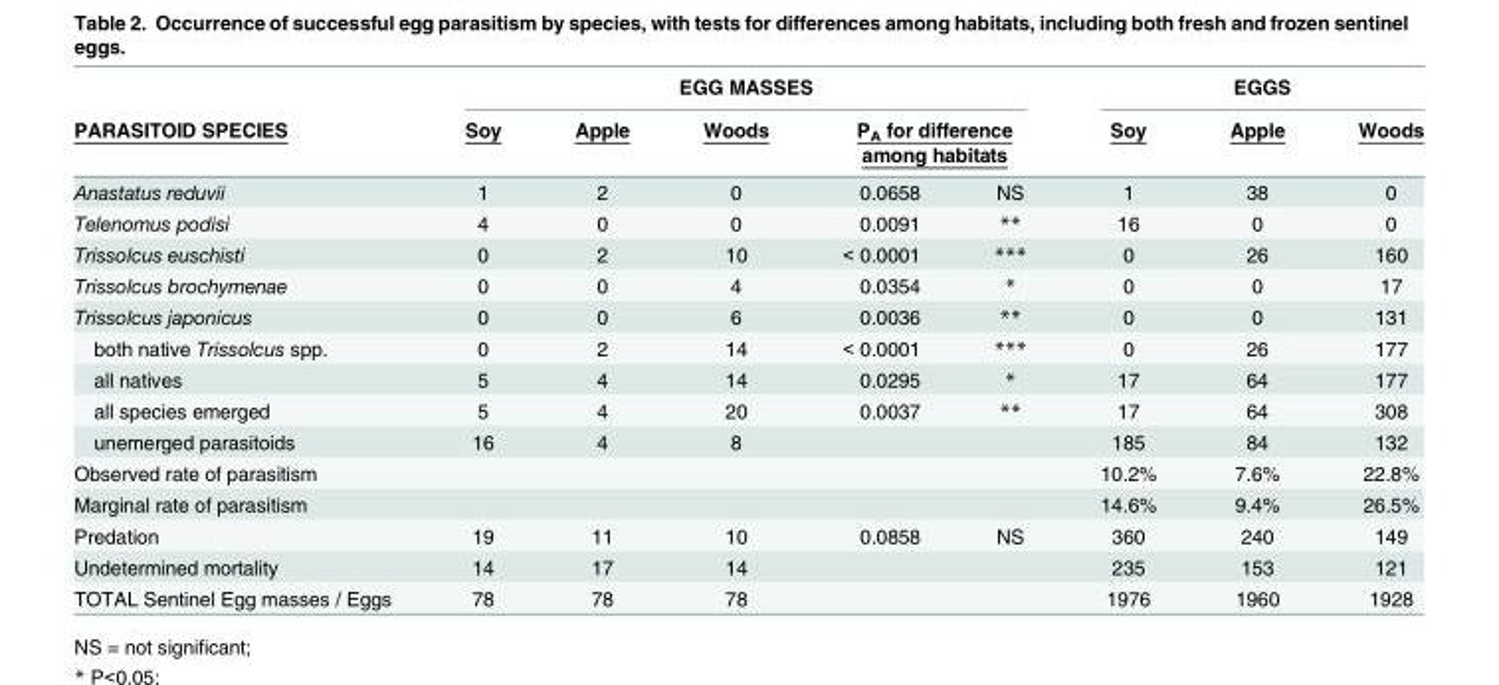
<table><thead><tr><td rowspan="3">PARASITOID SPECIES Anastatus reduvii</td><td colspan="5">EGG MASSES</td><td colspan="3">EGGS</td></tr><tr><td rowspan="2">Soy 1</td><td rowspan="2">Apple 2</td><td rowspan="2">Woods 0</td><td colspan="2">P<sub>A</sub> for difference among habitats</td><td rowspan="2">Soy 1</td><td rowspan="2">Apple 38</td><td rowspan="2">Woods 0</td></tr><tr><td>0.0658</td><td>NS</td></tr></thead><tbody><tr><td>Telenomus podisi</td><td>4</td><td>0</td><td>0</td><td>0.0091</td><td>**</td><td>16</td><td>0</td><td>0</td></tr><tr><td>Trissolcus euschisti</td><td>0</td><td>2</td><td>10</td><td>&lt; 0.0001</td><td>***</td><td>0</td><td>26</td><td>160</td></tr><tr><td>Trissolcus brochymenae</td><td>0</td><td>0</td><td>4</td><td>0.0354</td><td>*</td><td>0</td><td>0</td><td>17</td></tr><tr><td>Trissolcus japonicus</td><td>0</td><td>0</td><td>6</td><td>0.0036</td><td>**</td><td>0</td><td>0</td><td>131</td></tr><tr><td>both native Trissolcus spp.</td><td>0</td><td>2</td><td>14</td><td>&lt; 0.0001</td><td>***</td><td>0</td><td>26</td><td>177</td></tr><tr><td>all natives</td><td>5</td><td>4</td><td>14</td><td>0.0295</td><td>*</td><td>17</td><td>64</td><td>177</td></tr><tr><td>all species emerged</td><td>5</td><td>4</td><td>20</td><td>0.0037</td><td>**</td><td>17</td><td>64</td><td>308</td></tr><tr><td>unemerged parasitoids</td><td>16</td><td>4</td><td>8</td><td></td><td></td><td>185</td><td>84</td><td>132</td></tr><tr><td>Observed rate of parasitism</td><td></td><td></td><td></td><td></td><td></td><td>10.2%</td><td>7.6%</td><td>22.8%</td></tr><tr><td>Marginal rate of parasitism</td><td></td><td></td><td></td><td></td><td></td><td>14.6%</td><td>9.4%</td><td>26.5%</td></tr><tr><td>Predation</td><td>19</td><td>11</td><td>10</td><td>0.0858</td><td>NS</td><td>360</td><td>240</td><td>149</td></tr><tr><td>Undetermined mortality</td><td>14</td><td>17</td><td>14</td><td></td><td></td><td>235</td><td>153</td><td>121</td></tr><tr><td>TOTAL Sentinel Egg masses / Eggs</td><td>78</td><td>78</td><td>78</td><td></td><td></td><td>1976</td><td>1960</td><td>1928</td></tr></tbody></table>